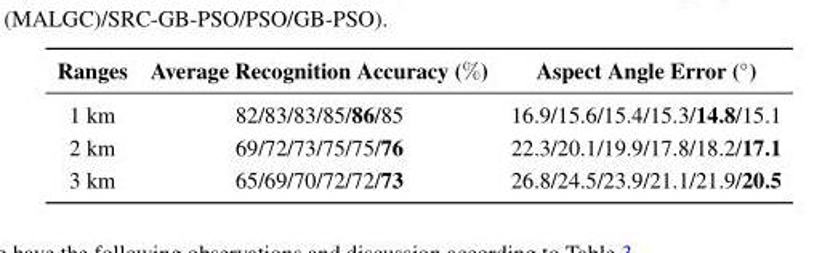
<table><thead><tr><td>Ranges</td><td>Average Recognition Accuracy (%)</td><td>Aspect Angle Error (◦)</td></tr></thead><tbody><tr><td>1 km</td><td>82/83/83/85/86/85</td><td>16.9/15.6/15.4/15.3/14.8/15.1</td></tr><tr><td>2 km</td><td>69/72/73/75/75/76</td><td>22.3/20.1/19.9/17.8/18.2/17.1</td></tr><tr><td>3 km</td><td>65/69/70/72/72/73</td><td>26.8/24.5/23.9/21.1/21.9/20.5</td></tr></tbody></table>